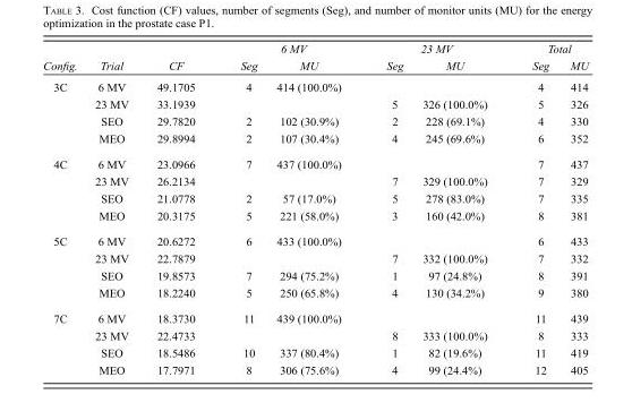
<table><thead><tr><td rowspan="2">Config.</td><td rowspan="2">Trial</td><td rowspan="2">CF</td><td colspan="2">6 MV</td><td colspan="2">23 MV</td><td colspan="2">Total</td></tr><tr><td>Seg</td><td>MU</td><td>Seg</td><td>MU</td><td>Seg</td><td>MU</td></tr></thead><tbody><tr><td rowspan="4">3C</td><td>6 MV</td><td>49.1705</td><td>4</td><td>414 (100.0%)</td><td></td><td></td><td>4</td><td>414</td></tr><tr><td>23 MV</td><td>33.1939</td><td></td><td></td><td>5</td><td>326 (100.0%)</td><td>5</td><td>326</td></tr><tr><td>SEO</td><td>29.7820</td><td>2</td><td>102 (30.9%)</td><td>2</td><td>228 (69.1%)</td><td>4</td><td>330</td></tr><tr><td>MEO</td><td>29.8994</td><td>2</td><td>107 (30.4%)</td><td>4</td><td>245 (69.6%)</td><td>6</td><td>352</td></tr><tr><td rowspan="4">4C</td><td>6 MV</td><td>23.0966</td><td>7</td><td>437 (100.0%)</td><td></td><td></td><td>7</td><td>437</td></tr><tr><td>23 MV</td><td>26.2134</td><td></td><td></td><td>7</td><td>329 (100.0%)</td><td>7</td><td>329</td></tr><tr><td>SEO</td><td>21.0778</td><td>2</td><td>57 (17.0%)</td><td>5</td><td>278 (83.0%)</td><td>7</td><td>335</td></tr><tr><td>MEO</td><td>20.3175</td><td>5</td><td>221 (58.0%)</td><td>3</td><td>160 (42.0%)</td><td>8</td><td>381</td></tr><tr><td rowspan="4">5C</td><td>6 MV</td><td>20.6272</td><td>6</td><td>433 (100.0%)</td><td></td><td></td><td>6</td><td>433</td></tr><tr><td>23 MV</td><td>22.7879</td><td></td><td></td><td>7</td><td>332 (100.0%)</td><td>7</td><td>332</td></tr><tr><td>SEO</td><td>19.8573</td><td>7</td><td>294 (75.2%)</td><td>1</td><td>97 (24.8%)</td><td>8</td><td>391</td></tr><tr><td>MEO</td><td>18.2240</td><td>5</td><td>250 (65.8%)</td><td>4</td><td>130 (34.2%)</td><td>9</td><td>380</td></tr><tr><td rowspan="4">7C</td><td>6 MV</td><td>18.3730</td><td>11</td><td>439 (100.0%)</td><td></td><td></td><td>11</td><td>439</td></tr><tr><td>23 MV</td><td>22.4733</td><td></td><td></td><td>8</td><td>333 (100.0%)</td><td>8</td><td>333</td></tr><tr><td>SEO</td><td>18.5486</td><td>10</td><td>337 (80.4%)</td><td>1</td><td>82 (19.6%)</td><td>11</td><td>419</td></tr><tr><td>MEO</td><td>17.7971</td><td>8</td><td>306 (75.6%)</td><td>4</td><td>99 (24.4%)</td><td>12</td><td>405</td></tr></tbody></table>